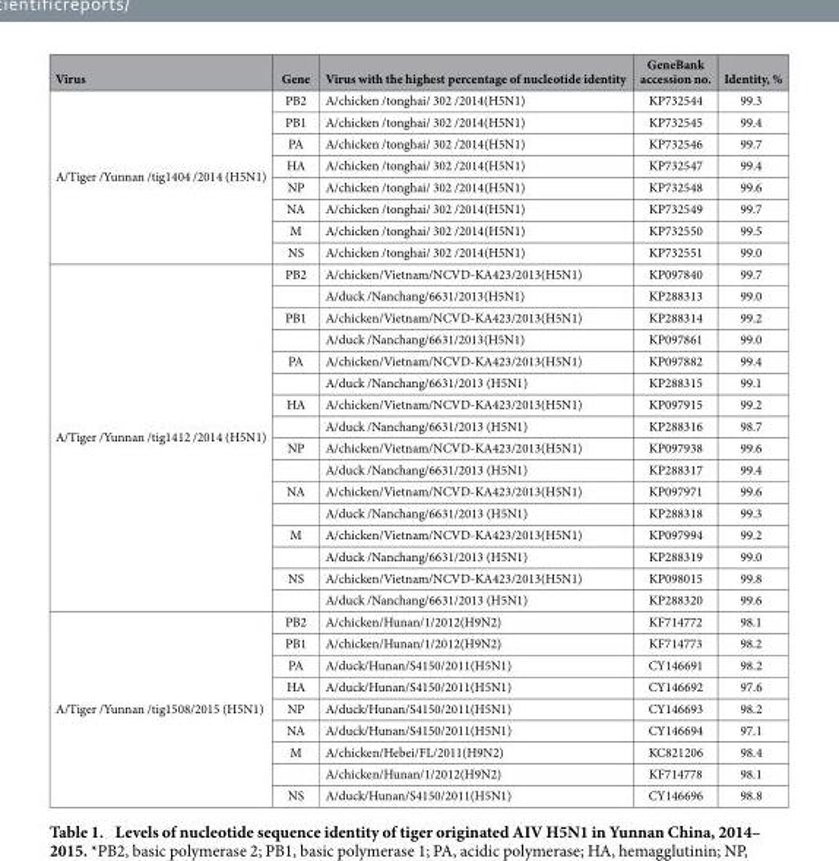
<table><thead><tr><td>Virus</td><td>Gene</td><td>Virus with the highest percentage of nucleotide identity</td><td>GeneBank accession no.</td><td>Identity, %</td></tr></thead><tbody><tr><td rowspan="8">A/Tiger /Yunnan /tig1404 /2014 (H5N1)</td><td>PB2</td><td>A/chicken /tonghai/ 302 /2014(H5N1)</td><td>KP732544</td><td>99.3</td></tr><tr><td>PB1</td><td>A/chicken /tonghai/ 302 /2014(H5N1)</td><td>KP732545</td><td>99.4</td></tr><tr><td>PA</td><td>A/chicken /tonghai/ 302 /2014(H5N1)</td><td>KP732546</td><td>99.7</td></tr><tr><td>HA</td><td>A/chicken /tonghai/ 302 /2014(H5N1)</td><td>KP732547</td><td>99.4</td></tr><tr><td>NP</td><td>A/chicken /tonghai/ 302 /2014(H5N1)</td><td>KP732548</td><td>99.6</td></tr><tr><td>NA</td><td>A/chicken /tonghai/ 302 /2014(H5N1)</td><td>KP732549</td><td>99.7</td></tr><tr><td>M</td><td>A/chicken /tonghai/ 302 /2014(H5N1)</td><td>KP732550</td><td>99.5</td></tr><tr><td>NS</td><td>A/chicken /tonghai/ 302 /2014(H5N1)</td><td>KP732551</td><td>99.0</td></tr><tr><td rowspan="16">A/Tiger /Yunnan /tig1412 /2014 (H5N1)</td><td>PB2</td><td>A/chicken/Vietnam/NCVD-KA423/2013(H5N1)</td><td>KP097840</td><td>99.7</td></tr><tr><td></td><td>A/duck /Nanchang/6631/2013(H5N1)</td><td>KP288313</td><td>99.0</td></tr><tr><td>PB1</td><td>A/chicken/Vietnam/NCVD-KA423/2013(H5N1)</td><td>KP288314</td><td>99.2</td></tr><tr><td></td><td>A/duck /Nanchang/6631/2013(H5N1)</td><td>KP097861</td><td>99.0</td></tr><tr><td>PA</td><td>A/chicken/Vietnam/NCVD-KA423/2013(H5N1)</td><td>KP097882</td><td>99.4</td></tr><tr><td></td><td>A/duck /Nanchang/6631/2013 (H5N1)</td><td>KP288315</td><td>99.1</td></tr><tr><td>HA</td><td>A/chicken/Vietnam/NCVD-KA423/2013(H5N1)</td><td>KP097915</td><td>99.2</td></tr><tr><td></td><td>A/duck /Nanchang/6631/2013 (H5N1)</td><td>KP288316</td><td>98.7</td></tr><tr><td>NP</td><td>A/chicken/Vietnam/NCVD-KA423/2013(H5N1)</td><td>KP097938</td><td>99.6</td></tr><tr><td></td><td>A/duck /Nanchang/6631/2013 (H5N1)</td><td>KP288317</td><td>99.4</td></tr><tr><td>NA</td><td>A/chicken/Vietnam/NCVD-KA423/2013(H5N1)</td><td>KP097971</td><td>99.6</td></tr><tr><td></td><td>A/duck /Nanchang/6631/2013 (H5N1)</td><td>KP288318</td><td>99.3</td></tr><tr><td>M</td><td>A/chicken/Vietnam/NCVD-KA423/2013(H5N1)</td><td>KP097994</td><td>99.2</td></tr><tr><td></td><td>A/duck /Nanchang/6631/2013 (H5N1)</td><td>KP288319</td><td>99.0</td></tr><tr><td>NS</td><td>A/chicken/Vietnam/NCVD-KA423/2013(H5N1)</td><td>KP098015</td><td>99.8</td></tr><tr><td></td><td>A/duck /Nanchang/6631/2013 (H5N1)</td><td>KP288320</td><td>99.6</td></tr><tr><td rowspan="9">A/Tiger /Yunnan /tig1508/2015 (H5N1)</td><td>PB2</td><td>A/chicken/Hunan/1/2012(H9N2)</td><td>KF714772</td><td>98.1</td></tr><tr><td>PB1</td><td>A/chicken/Hunan/1/2012(H9N2)</td><td>KF714773</td><td>98.2</td></tr><tr><td>PA</td><td>A/duck/Hunan/S4150/2011(H5N1)</td><td>CY146691</td><td>98.2</td></tr><tr><td>HA</td><td>A/duck/Hunan/S4150/2011(H5N1)</td><td>CY146692</td><td>97.6</td></tr><tr><td>NP</td><td>A/duck/Hunan/S4150/2011(H5N1)</td><td>CY146693</td><td>98.2</td></tr><tr><td>NA</td><td>A/duck/Hunan/S4150/2011(H5N1)</td><td>CY146694</td><td>97.1</td></tr><tr><td>M</td><td>A/chicken/Hebei/FL/2011(H9N2)</td><td>KC821206</td><td>98.4</td></tr><tr><td></td><td>A/chicken/Hunan/1/2012(H9N2)</td><td>KF714778</td><td>98.1</td></tr><tr><td>NS</td><td>A/duck/Hunan/S4150/2011(H5N1)</td><td>CY146696</td><td>98.8</td></tr></tbody></table>